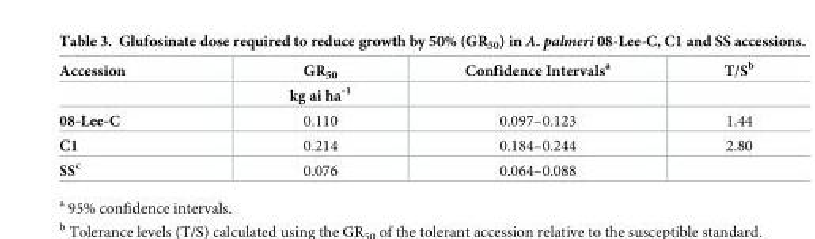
<table><thead><tr><td rowspan="2">Accession</td><td rowspan="2">GR<sub>50</sub> kg ai ha<sup>-1</sup></td><td rowspan="2">Confidence Intervals<sup>a</sup></td><td rowspan="2">T/S<sup>b</sup></td></tr><tr></tr></thead><tbody><tr><td>08-Lee-C</td><td>0.110</td><td>0.097–0.123</td><td>1.44</td></tr><tr><td>C1</td><td>0.214</td><td>0.184–0.244</td><td>2.80</td></tr><tr><td>SS<sup>c</sup></td><td>0.076</td><td>0.064–0.088</td><td></td></tr></tbody></table>